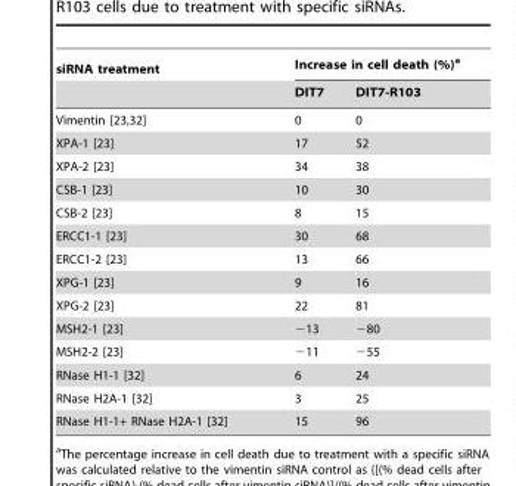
<table><thead><tr><td rowspan="2">siRNA treatment</td><td colspan="2">Increase in cell death (%)<sup>a</sup></td></tr><tr><td>DIT7</td><td>DIT7-R103</td></tr></thead><tbody><tr><td>Vimentin [23,32]</td><td>0</td><td>0</td></tr><tr><td>XPA-1 [23]</td><td>17</td><td>52</td></tr><tr><td>XPA-2 [23]</td><td>34</td><td>38</td></tr><tr><td>CSB-1 [23]</td><td>10</td><td>30</td></tr><tr><td>CSB-2 [23]</td><td>8</td><td>15</td></tr><tr><td>ERCC1-1 [23]</td><td>30</td><td>68</td></tr><tr><td>ERCC1-2 [23]</td><td>13</td><td>66</td></tr><tr><td>XPG-1 [23]</td><td>9</td><td>16</td></tr><tr><td>XPG-2 [23]</td><td>22</td><td>81</td></tr><tr><td>MSH2-1 [23]</td><td>−13</td><td>−80</td></tr><tr><td>MSH2-2 [23]</td><td>−11</td><td>−55</td></tr><tr><td>RNase H1-1 [32]</td><td>6</td><td>24</td></tr><tr><td>RNase H2A-1 [32]</td><td>3</td><td>25</td></tr><tr><td>RNase H1-1+ RNase H2A-1 [32]</td><td>15</td><td>96</td></tr></tbody></table>